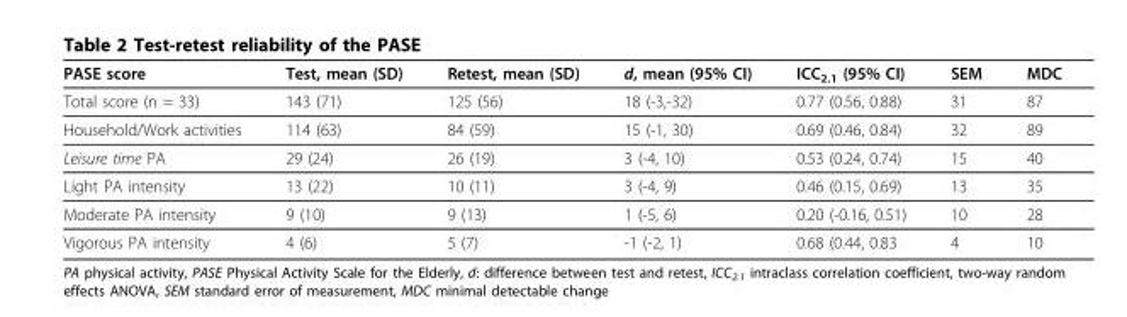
<table><thead><tr><td>PASE score</td><td>Test, mean (SD)</td><td>Retest, mean (SD)</td><td>d, mean (95% CI)</td><td>ICC<sub>2.1</sub> (95% CI)</td><td>SEM</td><td>MDC</td></tr></thead><tbody><tr><td>Total score (n = 33)</td><td>143 (71)</td><td>125 (56)</td><td>18 (-3,-32)</td><td>0.77 (0.56, 0.88)</td><td>31</td><td>87</td></tr><tr><td>Household/Work activities</td><td>114 (63)</td><td>84 (59)</td><td>15 (-1, 30)</td><td>0.69 (0.46, 0.84)</td><td>32</td><td>89</td></tr><tr><td>Leisure time PA</td><td>29 (24)</td><td>26 (19)</td><td>3 (-4, 10)</td><td>0.53 (0.24, 0.74)</td><td>15</td><td>40</td></tr><tr><td>Light PA intensity</td><td>13 (22)</td><td>10 (11)</td><td>3 (-4, 9)</td><td>0.46 (0.15, 0.69)</td><td>13</td><td>35</td></tr><tr><td>Moderate PA intensity</td><td>9 (10)</td><td>9 (13)</td><td>1 (-5, 6)</td><td>0.20 (-0.16, 0.51)</td><td>10</td><td>28</td></tr><tr><td>Vigorous PA intensity</td><td>4 (6)</td><td>5 (7)</td><td>-1 (-2, 1)</td><td>0.68 (0.44, 0.83</td><td>4</td><td>10</td></tr></tbody></table>